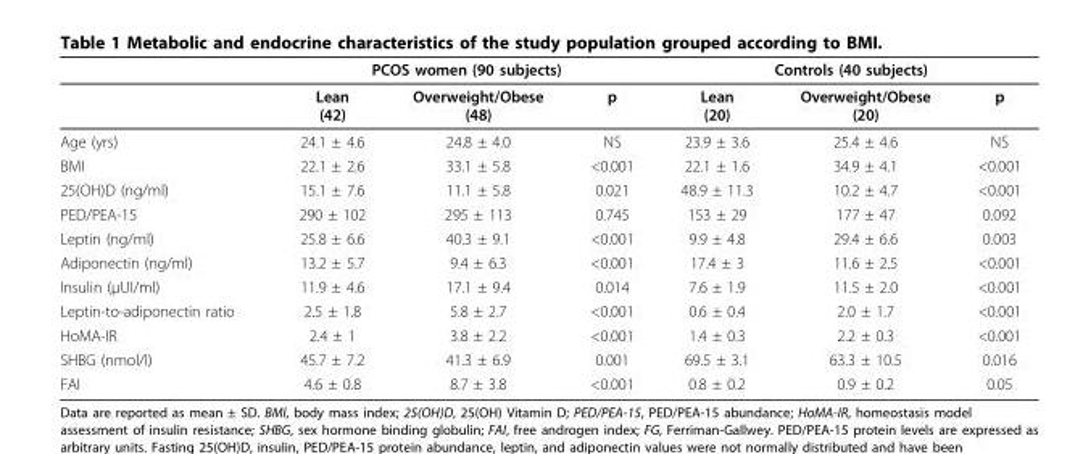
<table><thead><tr><td rowspan="2"></td><td colspan="3">PCOS women (90 subjects)</td><td colspan="3">Controls (40 subjects)</td></tr><tr><td>Lean (42)</td><td>Overweight/Obese (48)</td><td>p</td><td>Lean (20)</td><td>Overweight/Obese (20)</td><td>p</td></tr></thead><tbody><tr><td>Age (yrs)</td><td>24.1 ± 4.6</td><td>24.8 ± 4.0</td><td>NS</td><td>23.9 ± 3.6</td><td>25.4 ± 4.6</td><td>NS</td></tr><tr><td>BMI</td><td>22.1 ± 2.6</td><td>33.1 ± 5.8</td><td>&lt;0.001</td><td>22.1 ± 1.6</td><td>34.9 ± 4.1</td><td>&lt;0.001</td></tr><tr><td>25(OH)D (ng/ml)</td><td>15.1 ± 7.6</td><td>11.1 ± 5.8</td><td>0.021</td><td>48.9 ± 11.3</td><td>10.2 ± 4.7</td><td>&lt;0.001</td></tr><tr><td>PED/PEA-15</td><td>290 ± 102</td><td>295 ± 113</td><td>0.745</td><td>153 ± 29</td><td>177 ± 47</td><td>0.092</td></tr><tr><td>Leptin (ng/ml)</td><td>25.8 ± 6.6</td><td>40.3 ± 9.1</td><td>&lt;0.001</td><td>9.9 ± 4.8</td><td>29.4 ± 6.6</td><td>0.003</td></tr><tr><td>Adiponectin (ng/ml)</td><td>13.2 ± 5.7</td><td>9.4 ± 6.3</td><td>&lt;0.001</td><td>17.4 ± 3</td><td>11.6 ± 2.5</td><td>&lt;0.001</td></tr><tr><td>Insulin (μUI/ml)</td><td>11.9 ± 4.6</td><td>17.1 ± 9.4</td><td>0.014</td><td>7.6 ± 1.9</td><td>11.5 ± 2.0</td><td>&lt;0.001</td></tr><tr><td>Leptin-to-adiponectin ratio</td><td>2.5 ± 1.8</td><td>5.8 ± 2.7</td><td>&lt;0.001</td><td>0.6 ± 0.4</td><td>2.0 ± 1.7</td><td>&lt;0.001</td></tr><tr><td>HoMA-IR</td><td>2.4 ± 1</td><td>3.8 ± 2.2</td><td>&lt;0.001</td><td>1.4 ± 0.3</td><td>2.2 ± 0.3</td><td>&lt;0.001</td></tr><tr><td>SHBG (nmol/l)</td><td>45.7 ± 7.2</td><td>41.3 ± 6.9</td><td>0.001</td><td>69.5 ± 3.1</td><td>63.3 ± 10.5</td><td>0.016</td></tr><tr><td>FAI</td><td>4.6 ± 0.8</td><td>8.7 ± 3.8</td><td>&lt;0.001</td><td>0.8 ± 0.2</td><td>0.9 ± 0.2</td><td>0.05</td></tr></tbody></table>